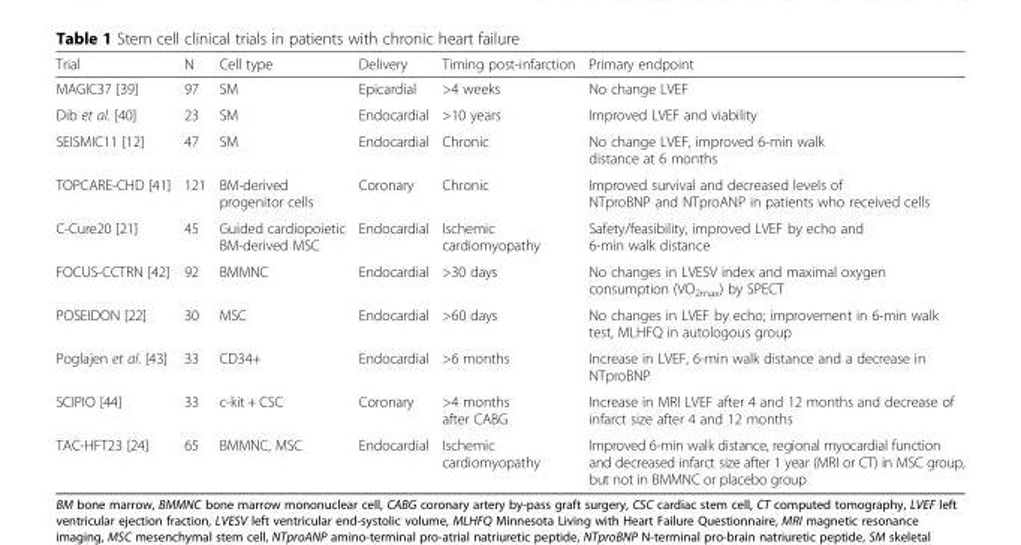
<table><thead><tr><td>Trial</td><td>N</td><td>Cell type</td><td>Delivery</td><td>Timing post-infarction</td><td>Primary endpoint</td></tr></thead><tbody><tr><td>MAGIC37 [39]</td><td>97</td><td>SM</td><td>Epicardial</td><td>&gt;4 weeks</td><td>No change LVEF</td></tr><tr><td>Dib et al. [40]</td><td>23</td><td>SM</td><td>Endocardial</td><td>&gt;10 years</td><td>Improved LVEF and viability</td></tr><tr><td>SEISMIC11 [12]</td><td>47</td><td>SM</td><td>Endocardial</td><td>Chronic</td><td>No change LVEF, improved 6-min walk distance at 6 months</td></tr><tr><td>TOPCARE-CHD [41]</td><td>121</td><td>BM-derived progenitor cells</td><td>Coronary</td><td>Chronic</td><td>Improved survival and decreased levels of NTproBNP and NTproANP in patients who received cells</td></tr><tr><td>C-Cure20 [21]</td><td>45</td><td>Guided cardiopoietic BM-derived MSC</td><td>Endocardial</td><td>Ischemic cardiomyopathy</td><td>Safety/feasibility, improved LVEF by echo and 6-min walk distance</td></tr><tr><td>FOCUS-CCTRN [42]</td><td>92</td><td>BMMNC</td><td>Endocardial</td><td>&gt;30 days</td><td>No changes in LVESV index and maximal oxygen consumption (VO<sub>2max</sub>) by SPECT</td></tr><tr><td>POSEIDON [22]</td><td>30</td><td>MSC</td><td>Endocardial</td><td>&gt;60 days</td><td>No changes in LVEF by echo; improvement in 6-min walk test, MLHFQ in autologous group</td></tr><tr><td>Poglajen et al. [43]</td><td>33</td><td>CD34+</td><td>Endocardial</td><td>&gt;6 months</td><td>Increase in LVEF, 6-min walk distance and a decrease in NTproBNP</td></tr><tr><td>SCIPIO [44]</td><td>33</td><td>c-kit + CSC</td><td>Coronary</td><td>&gt;4 months after CABG</td><td>Increase in MRI LVEF after 4 and 12 months and decrease of infarct size after 4 and 12 months</td></tr><tr><td>TAC-HFT23 [24]</td><td>65</td><td>BMMNC, MSC</td><td>Endocardial</td><td>Ischemic cardiomyopathy</td><td>Improved 6-min walk distance, regional myocardial function and decreased infarct size after 1 year (MRI or CT) in MSC group, but not in BMMNC or placebo group</td></tr></tbody></table>